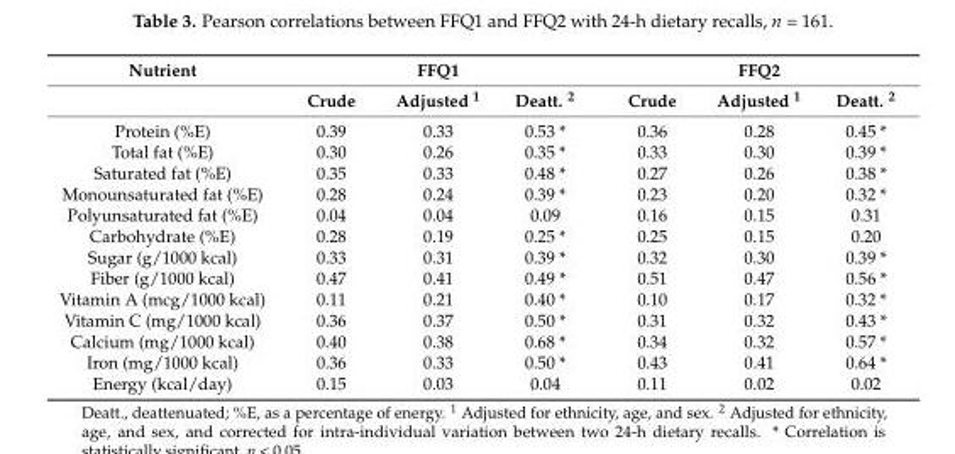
<table><thead><tr><td rowspan="2">Nutrient</td><td colspan="3">FFQ1</td><td colspan="3">FFQ2</td></tr><tr><td>Crude</td><td>Adjusted <sup>1</sup></td><td>Deatt. <sup>2</sup></td><td>Crude</td><td>Adjusted <sup>1</sup></td><td>Deatt. <sup>2</sup></td></tr></thead><tbody><tr><td>Protein (%E)</td><td>0.39</td><td>0.33</td><td>0.53 *</td><td>0.36</td><td>0.28</td><td>0.45 *</td></tr><tr><td>Total fat (%E)</td><td>0.30</td><td>0.26</td><td>0.35 *</td><td>0.33</td><td>0.30</td><td>0.39 *</td></tr><tr><td>Saturated fat (%E)</td><td>0.35</td><td>0.33</td><td>0.48 *</td><td>0.27</td><td>0.26</td><td>0.38 *</td></tr><tr><td>Monounsaturated fat (%E)</td><td>0.28</td><td>0.24</td><td>0.39 *</td><td>0.23</td><td>0.20</td><td>0.32 *</td></tr><tr><td>Polyunsaturated fat (%E)</td><td>0.04</td><td>0.04</td><td>0.09</td><td>0.16</td><td>0.15</td><td>0.31</td></tr><tr><td>Carbohydrate (%E)</td><td>0.28</td><td>0.19</td><td>0.25 *</td><td>0.25</td><td>0.15</td><td>0.20</td></tr><tr><td>Sugar (g/1000 kcal)</td><td>0.33</td><td>0.31</td><td>0.39 *</td><td>0.32</td><td>0.30</td><td>0.39 *</td></tr><tr><td>Fiber (g/1000 kcal)</td><td>0.47</td><td>0.41</td><td>0.49 *</td><td>0.51</td><td>0.47</td><td>0.56 *</td></tr><tr><td>Vitamin A (mcg/1000 kcal)</td><td>0.11</td><td>0.21</td><td>0.40 *</td><td>0.10</td><td>0.17</td><td>0.32 *</td></tr><tr><td>Vitamin C (mg/1000 kcal)</td><td>0.36</td><td>0.37</td><td>0.50 *</td><td>0.31</td><td>0.32</td><td>0.43 *</td></tr><tr><td>Calcium (mg/1000 kcal)</td><td>0.40</td><td>0.38</td><td>0.68 *</td><td>0.34</td><td>0.32</td><td>0.57 *</td></tr><tr><td>Iron (mg/1000 kcal)</td><td>0.36</td><td>0.33</td><td>0.50 *</td><td>0.43</td><td>0.41</td><td>0.64 *</td></tr><tr><td>Energy (kcal/day)</td><td>0.15</td><td>0.03</td><td>0.04</td><td>0.11</td><td>0.02</td><td>0.02</td></tr></tbody></table>